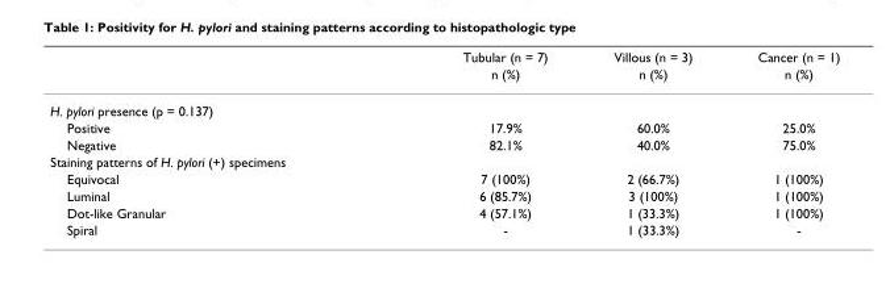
<table><thead><tr><td rowspan="2"></td><td rowspan="2">Tubular (n = 7) n (%)</td><td rowspan="2">Villous (n = 3) n (%)</td><td rowspan="2">Cancer (n = 1) n (%)</td></tr><tr></tr></thead><tbody><tr><td colspan="4">H. pylori presence (p = 0.137)</td></tr><tr><td>Positive</td><td>17.9%</td><td>60.0%</td><td>25.0%</td></tr><tr><td>Negative</td><td>82.1%</td><td>40.0%</td><td>75.0%</td></tr><tr><td colspan="4">Staining patterns of H. pylori (+) specimens</td></tr><tr><td>Equivocal</td><td>7 (100%)</td><td>2 (66.7%)</td><td>1 (100%)</td></tr><tr><td>Luminal</td><td>6 (85.7%)</td><td>3 (100%)</td><td>1 (100%)</td></tr><tr><td>Dot-like Granular</td><td>4 (57.1%)</td><td>1 (33.3%)</td><td>1 (100%)</td></tr><tr><td>Spiral</td><td>-</td><td>1 (33.3%)</td><td>-</td></tr></tbody></table>